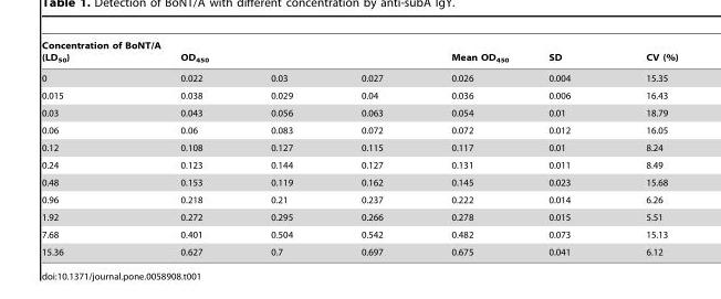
<table><thead><tr><td rowspan="2">Concentration of BoNT/A (LD<sub>50</sub>) 0</td><td colspan="3">OD<sub>450</sub></td><td rowspan="2">Mean OD<sub>450</sub> 0.026</td><td rowspan="2">SD 0.004</td><td rowspan="2">CV (%) 15.35</td></tr><tr><td>0.022</td><td>0.03</td><td>0.027</td></tr></thead><tbody><tr><td>0.015</td><td>0.038</td><td>0.029</td><td>0.04</td><td>0.036</td><td>0.006</td><td>16.43</td></tr><tr><td>0.03</td><td>0.043</td><td>0.056</td><td>0.063</td><td>0.054</td><td>0.01</td><td>18.79</td></tr><tr><td>0.06</td><td>0.06</td><td>0.083</td><td>0.072</td><td>0.072</td><td>0.012</td><td>16.05</td></tr><tr><td>0.12</td><td>0.108</td><td>0.127</td><td>0.115</td><td>0.117</td><td>0.01</td><td>8.24</td></tr><tr><td>0.24</td><td>0.123</td><td>0.144</td><td>0.127</td><td>0.131</td><td>0.011</td><td>8.49</td></tr><tr><td>0.48</td><td>0.153</td><td>0.119</td><td>0.162</td><td>0.145</td><td>0.023</td><td>15.68</td></tr><tr><td>0.96</td><td>0.218</td><td>0.21</td><td>0.237</td><td>0.222</td><td>0.014</td><td>6.26</td></tr><tr><td>1.92</td><td>0.272</td><td>0.295</td><td>0.266</td><td>0.278</td><td>0.015</td><td>5.51</td></tr><tr><td>7.68</td><td>0.401</td><td>0.504</td><td>0.542</td><td>0.482</td><td>0.073</td><td>15.13</td></tr><tr><td>15.36</td><td>0.627</td><td>0.7</td><td>0.697</td><td>0.675</td><td>0.041</td><td>6.12</td></tr></tbody></table>